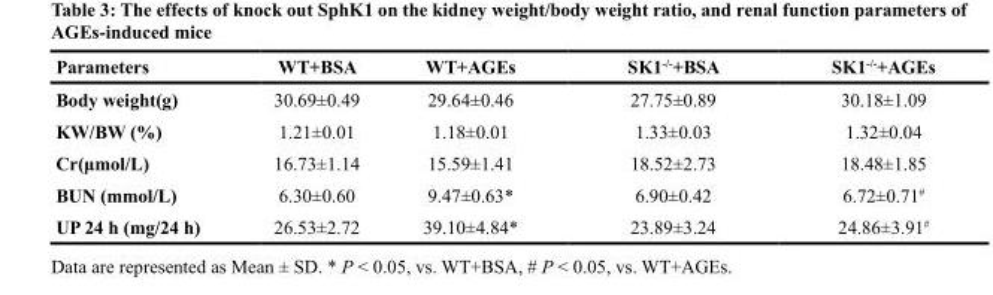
<table><thead><tr><td>Parameters</td><td>WT+BSA</td><td>WT+AGEs</td><td>SK1<sup>-/-</sup>+BSA</td><td>SK1<sup>-/-</sup>+AGEs</td></tr></thead><tbody><tr><td>Body weight(g)</td><td>30.69±0.49</td><td>29.64±0.46</td><td>27.75±0.89</td><td>30.18±1.09</td></tr><tr><td>KW/BW (%)</td><td>1.21±0.01</td><td>1.18±0.01</td><td>1.33±0.03</td><td>1.32±0.04</td></tr><tr><td>Cr(μmol/L)</td><td>16.73±1.14</td><td>15.59±1.41</td><td>18.52±2.73</td><td>18.48±1.85</td></tr><tr><td>BUN (mmol/L)</td><td>6.30±0.60</td><td>9.47±0.63*</td><td>6.90±0.42</td><td>6.72±0.71<sup>#</sup></td></tr><tr><td>UP 24 h (mg/24 h)</td><td>26.53±2.72</td><td>39.10±4.84*</td><td>23.89±3.24</td><td>24.86±3.91<sup>#</sup></td></tr></tbody></table>